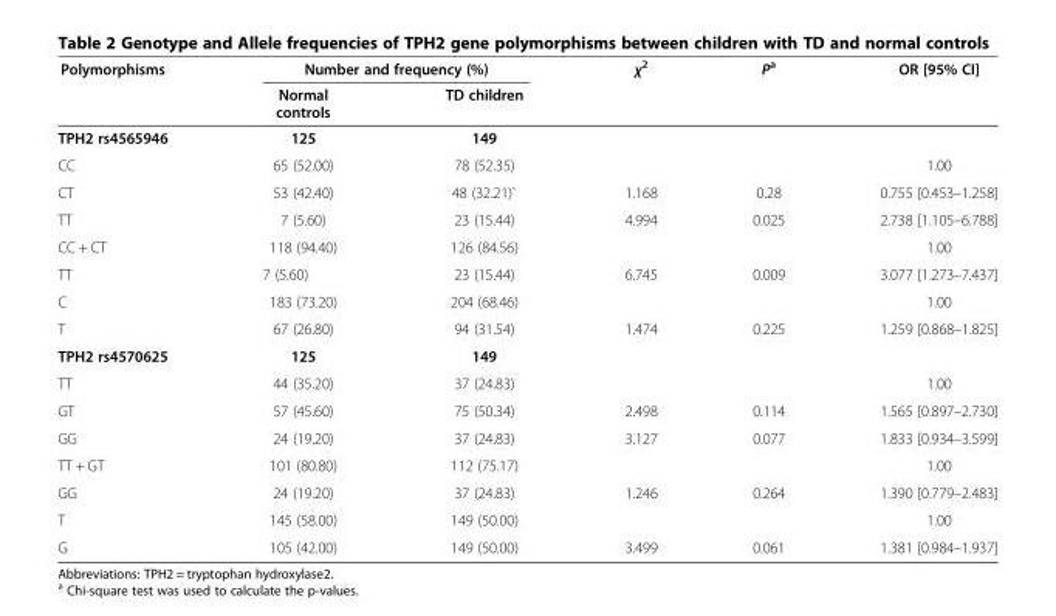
<table><thead><tr><td rowspan="2">Polymorphisms</td><td colspan="2">Number and frequency (%)</td><td rowspan="2">χ<sup>2</sup></td><td rowspan="2">P<sup>a</sup></td><td rowspan="2">OR [95% CI]</td></tr><tr><td>Normal controls</td><td>TD children</td></tr></thead><tbody><tr><td>TPH2 rs4565946</td><td>125</td><td>149</td><td></td><td></td><td></td></tr><tr><td>CC</td><td>65 (52.00)</td><td>78 (52.35)</td><td></td><td></td><td>1.00</td></tr><tr><td>CT</td><td>53 (42.40)</td><td>48 (32.21)`</td><td>1.168</td><td>0.28</td><td>0.755 [0.453–1.258]</td></tr><tr><td>TT</td><td>7 (5.60)</td><td>23 (15.44)</td><td>4.994</td><td>0.025</td><td>2.738 [1.105–6.788]</td></tr><tr><td>CC + CT</td><td>118 (94.40)</td><td>126 (84.56)</td><td></td><td></td><td>1.00</td></tr><tr><td>TT</td><td>7 (5.60)</td><td>23 (15.44)</td><td>6.745</td><td>0.009</td><td>3.077 [1.273–7.437]</td></tr><tr><td>C</td><td>183 (73.20)</td><td>204 (68.46)</td><td></td><td></td><td>1.00</td></tr><tr><td>T</td><td>67 (26.80)</td><td>94 (31.54)</td><td>1.474</td><td>0.225</td><td>1.259 [0.868–1.825]</td></tr><tr><td>TPH2 rs4570625</td><td>125</td><td>149</td><td></td><td></td><td></td></tr><tr><td>TT</td><td>44 (35.20)</td><td>37 (24.83)</td><td></td><td></td><td>1.00</td></tr><tr><td>GT</td><td>57 (45.60)</td><td>75 (50.34)</td><td>2.498</td><td>0.114</td><td>1.565 [0.897–2.730]</td></tr><tr><td>GG</td><td>24 (19.20)</td><td>37 (24.83)</td><td>3.127</td><td>0.077</td><td>1.833 [0.934–3.599]</td></tr><tr><td>TT + GT</td><td>101 (80.80)</td><td>112 (75.17)</td><td></td><td></td><td>1.00</td></tr><tr><td>GG</td><td>24 (19.20)</td><td>37 (24.83)</td><td>1.246</td><td>0.264</td><td>1.390 [0.779–2.483]</td></tr><tr><td>T</td><td>145 (58.00)</td><td>149 (50.00)</td><td></td><td></td><td>1.00</td></tr><tr><td>G</td><td>105 (42.00)</td><td>149 (50.00)</td><td>3.499</td><td>0.061</td><td>1.381 [0.984–1.937]</td></tr></tbody></table>